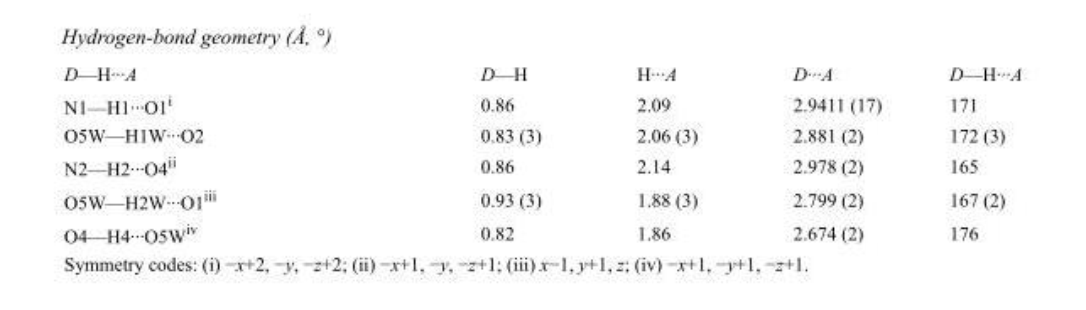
<table><tbody><tr><td>D—H···A</td><td>D—H</td><td>H···A</td><td>D···A</td><td>D—H···A</td></tr><tr><td>N1—H1···O1<sup>i</sup></td><td>0.86</td><td>2.09</td><td>2.9411 (17)</td><td>171</td></tr><tr><td>O5W—H1W···O2</td><td>0.83 (3)</td><td>2.06 (3)</td><td>2.881 (2)</td><td>172 (3)</td></tr><tr><td>N2—H2···O4<sup>ii</sup></td><td>0.86</td><td>2.14</td><td>2.978 (2)</td><td>165</td></tr><tr><td>O5W—H2W···O1<sup>iii</sup></td><td>0.93 (3)</td><td>1.88 (3)</td><td>2.799 (2)</td><td>167 (2)</td></tr><tr><td>O4—H4···O5W<sup>iv</sup></td><td>0.82</td><td>1.86</td><td>2.674 (2)</td><td>176</td></tr></tbody></table>